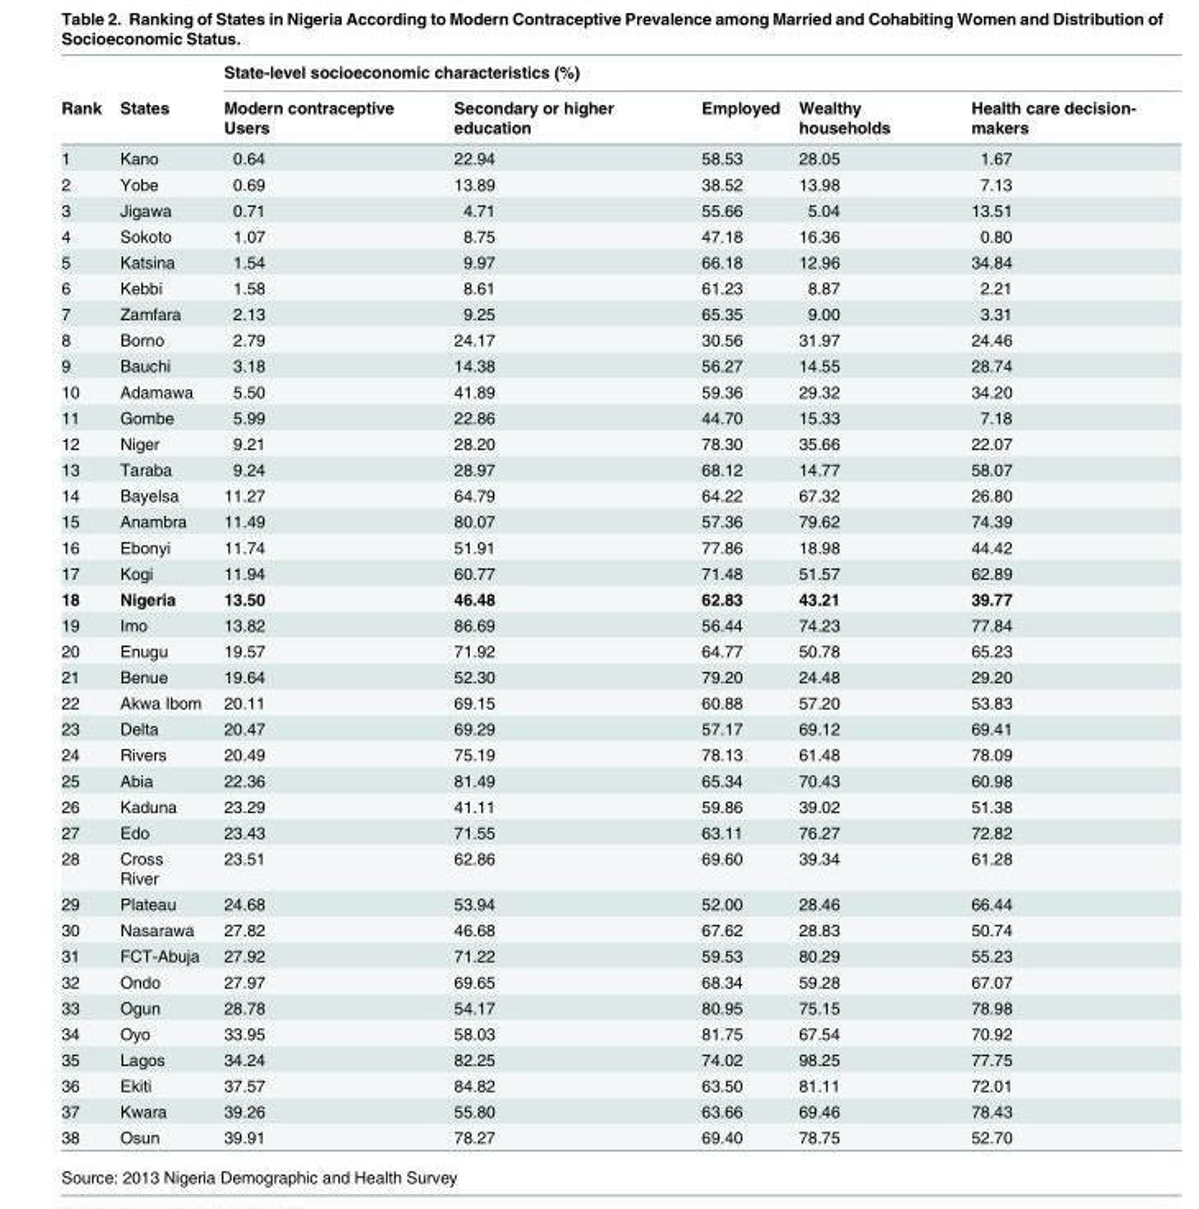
<table><thead><tr><td rowspan="2">Rank</td><td rowspan="2">States</td><td colspan="5">State-level socioeconomic characteristics (%)</td></tr><tr><td>Modern contraceptive Users</td><td>Secondary or higher education</td><td>Employed</td><td>Wealthy households</td><td>Health care decision- makers</td></tr></thead><tbody><tr><td>1</td><td>Kano</td><td>0.64</td><td>22.94</td><td>58.53</td><td>28.05</td><td>1.67</td></tr><tr><td>2</td><td>Yobe</td><td>0.69</td><td>13.89</td><td>38.52</td><td>13.98</td><td>7.13</td></tr><tr><td>3</td><td>Jigawa</td><td>0.71</td><td>4.71</td><td>55.66</td><td>5.04</td><td>13.51</td></tr><tr><td>4</td><td>Sokoto</td><td>1.07</td><td>8.75</td><td>47.18</td><td>16.36</td><td>0.80</td></tr><tr><td>5</td><td>Katsina</td><td>1.54</td><td>9.97</td><td>66.18</td><td>12.96</td><td>34.84</td></tr><tr><td>6</td><td>Kebbi</td><td>1.58</td><td>8.61</td><td>61.23</td><td>8.87</td><td>2.21</td></tr><tr><td>7</td><td>Zamfara</td><td>2.13</td><td>9.25</td><td>65.35</td><td>9.00</td><td>3.31</td></tr><tr><td>8</td><td>Borno</td><td>2.79</td><td>24.17</td><td>30.56</td><td>31.97</td><td>24.46</td></tr><tr><td>9</td><td>Bauchi</td><td>3.18</td><td>14.38</td><td>56.27</td><td>14.55</td><td>28.74</td></tr><tr><td>10</td><td>Adamawa</td><td>5.50</td><td>41.89</td><td>59.36</td><td>29.32</td><td>34.20</td></tr><tr><td>11</td><td>Gombe</td><td>5.99</td><td>22.86</td><td>44.70</td><td>15.33</td><td>7.18</td></tr><tr><td>12</td><td>Niger</td><td>9.21</td><td>28.20</td><td>78.30</td><td>35.66</td><td>22.07</td></tr><tr><td>13</td><td>Taraba</td><td>9.24</td><td>28.97</td><td>68.12</td><td>14.77</td><td>58.07</td></tr><tr><td>14</td><td>Bayelsa</td><td>11.27</td><td>64.79</td><td>64.22</td><td>67.32</td><td>26.80</td></tr><tr><td>15</td><td>Anambra</td><td>11.49</td><td>80.07</td><td>57.36</td><td>79.62</td><td>74.39</td></tr><tr><td>16</td><td>Ebonyi</td><td>11.74</td><td>51.91</td><td>77.86</td><td>18.98</td><td>44.42</td></tr><tr><td>17</td><td>Kogi</td><td>11.94</td><td>60.77</td><td>71.48</td><td>51.57</td><td>62.89</td></tr><tr><td>18</td><td>Nigeria</td><td>13.50</td><td>46.48</td><td>62.83</td><td>43.21</td><td>39.77</td></tr><tr><td>19</td><td>Imo</td><td>13.82</td><td>86.69</td><td>56.44</td><td>74.23</td><td>77.84</td></tr><tr><td>20</td><td>Enugu</td><td>19.57</td><td>71.92</td><td>64.77</td><td>50.78</td><td>65.23</td></tr><tr><td>21</td><td>Benue</td><td>19.64</td><td>52.30</td><td>79.20</td><td>24.48</td><td>29.20</td></tr><tr><td>22</td><td>Akwa Ibom</td><td>20.11</td><td>69.15</td><td>60.88</td><td>57.20</td><td>53.83</td></tr><tr><td>23</td><td>Delta</td><td>20.47</td><td>69.29</td><td>57.17</td><td>69.12</td><td>69.41</td></tr><tr><td>24</td><td>Rivers</td><td>20.49</td><td>75.19</td><td>78.13</td><td>61.48</td><td>78.09</td></tr><tr><td>25</td><td>Abia</td><td>22.36</td><td>81.49</td><td>65.34</td><td>70.43</td><td>60.98</td></tr><tr><td>26</td><td>Kaduna</td><td>23.29</td><td>41.11</td><td>59.86</td><td>39.02</td><td>51.38</td></tr><tr><td>27</td><td>Edo</td><td>23.43</td><td>71.55</td><td>63.11</td><td>76.27</td><td>72.82</td></tr><tr><td>28</td><td>Cross River</td><td>23.51</td><td>62.86</td><td>69.60</td><td>39.34</td><td>61.28</td></tr><tr><td>29</td><td>Plateau</td><td>24.68</td><td>53.94</td><td>52.00</td><td>28.46</td><td>66.44</td></tr><tr><td>30</td><td>Nasarawa</td><td>27.82</td><td>46.68</td><td>67.62</td><td>28.83</td><td>50.74</td></tr><tr><td>31</td><td>FCT-Abuja</td><td>27.92</td><td>71.22</td><td>59.53</td><td>80.29</td><td>55.23</td></tr><tr><td>32</td><td>Ondo</td><td>27.97</td><td>69.65</td><td>68.34</td><td>59.28</td><td>67.07</td></tr><tr><td>33</td><td>Ogun</td><td>28.78</td><td>54.17</td><td>80.95</td><td>75.15</td><td>78.98</td></tr><tr><td>34</td><td>Oyo</td><td>33.95</td><td>58.03</td><td>81.75</td><td>67.54</td><td>70.92</td></tr><tr><td>35</td><td>Lagos</td><td>34.24</td><td>82.25</td><td>74.02</td><td>98.25</td><td>77.75</td></tr><tr><td>36</td><td>Ekiti</td><td>37.57</td><td>84.82</td><td>63.50</td><td>81.11</td><td>72.01</td></tr><tr><td>37</td><td>Kwara</td><td>39.26</td><td>55.80</td><td>63.66</td><td>69.46</td><td>78.43</td></tr><tr><td>38</td><td>Osun</td><td>39.91</td><td>78.27</td><td>69.40</td><td>78.75</td><td>52.70</td></tr></tbody></table>